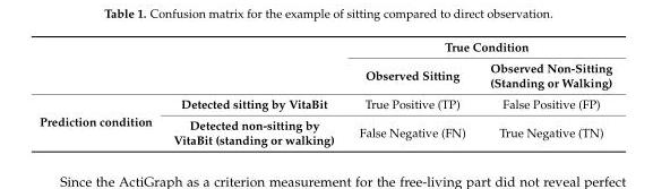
<table><thead><tr><td rowspan="2"></td><td rowspan="2"></td><td colspan="2">True Condition</td></tr><tr><td>Observed Sitting</td><td>Observed Non-Sitting (Standing or Walking)</td></tr></thead><tbody><tr><td rowspan="2">Prediction condition</td><td>Detected sitting by VitaBit</td><td>True Positive (TP)</td><td>False Positive (FP)</td></tr><tr><td>Detected non-sitting by VitaBit (standing or walking)</td><td>False Negative (FN)</td><td>True Negative (TN)</td></tr></tbody></table>